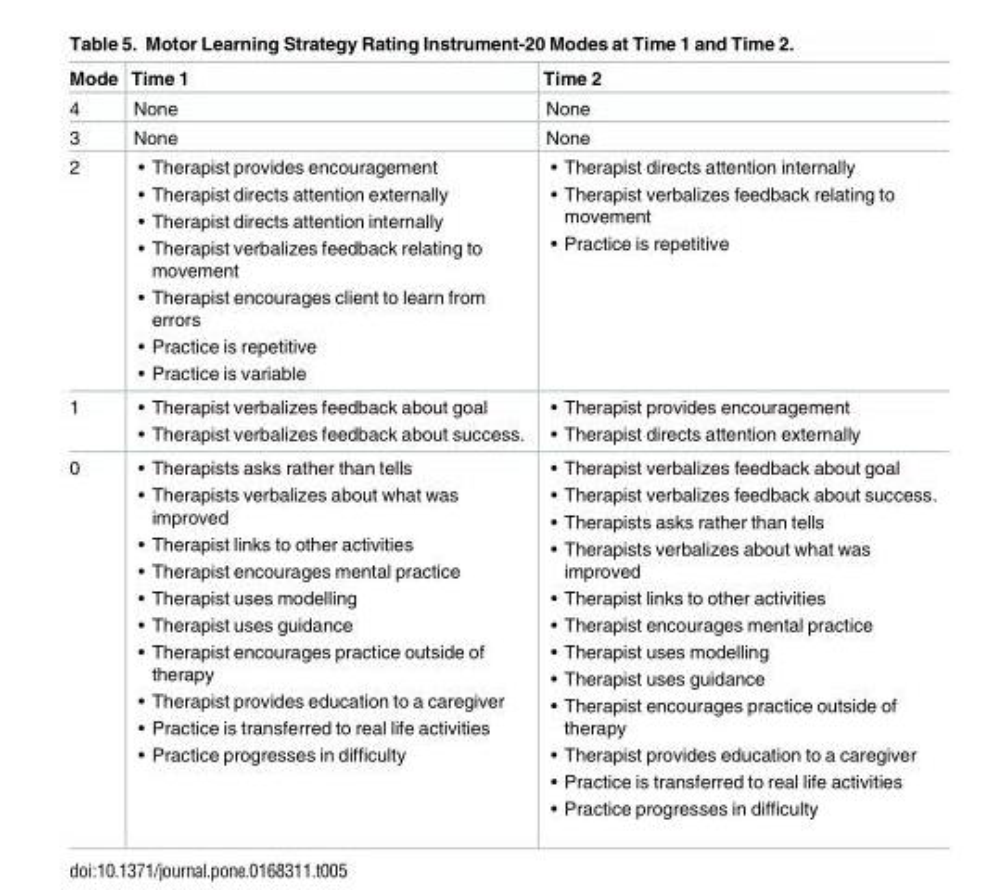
<table><thead><tr><td>Mode</td><td>Time 1</td><td>Time 2</td></tr></thead><tbody><tr><td>4</td><td>None</td><td>None</td></tr><tr><td>3</td><td>None</td><td>None</td></tr><tr><td>2</td><td>• Therapist provides encouragement • Therapist directs attention externally • Therapist directs attention internally • Therapist verbalizes feedback relating to movement • Therapist encourages client to learn from errors • Practice is repetitive • Practice is variable</td><td>• Therapist directs attention internally • Therapist verbalizes feedback relating to movement • Practice is repetitive</td></tr><tr><td>1</td><td>• Therapist verbalizes feedback about goal • Therapist verbalizes feedback about success.</td><td>• Therapist provides encouragement • Therapist directs attention externally</td></tr><tr><td>0</td><td>• Therapists asks rather than tells • Therapists verbalizes about what was improved • Therapist links to other activities • Therapist encourages mental practice • Therapist uses modelling • Therapist uses guidance • Therapist encourages practice outside of therapy • Therapist provides education to a caregiver • Practice is transferred to real life activities • Practice progresses in difficulty</td><td>• Therapist verbalizes feedback about goal • Therapist verbalizes feedback about success. • Therapists asks rather than tells • Therapists verbalizes about what was improved • Therapist links to other activities • Therapist encourages mental practice • Therapist uses modelling • Therapist uses guidance • Therapist encourages practice outside of therapy • Therapist provides education to a caregiver • Practice is transferred to real life activities • Practice progresses in difficulty</td></tr></tbody></table>